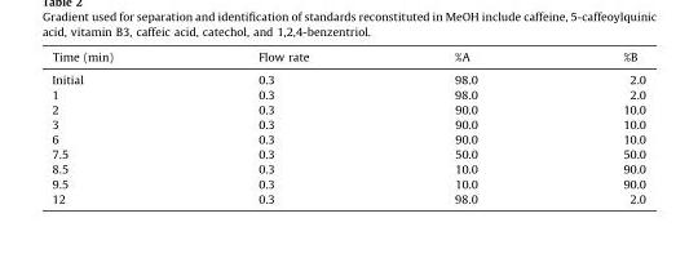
<table><thead><tr><td>Time (min)</td><td>Flow rate</td><td>%A</td><td>%B</td></tr></thead><tbody><tr><td>Initial</td><td>0.3</td><td>98.0</td><td>2.0</td></tr><tr><td>1</td><td>0.3</td><td>98.0</td><td>2.0</td></tr><tr><td>2</td><td>0.3</td><td>90.0</td><td>10.0</td></tr><tr><td>3</td><td>0.3</td><td>90.0</td><td>10.0</td></tr><tr><td>6</td><td>0.3</td><td>90.0</td><td>10.0</td></tr><tr><td>7.5</td><td>0.3</td><td>50.0</td><td>50.0</td></tr><tr><td>8.5</td><td>0.3</td><td>10.0</td><td>90.0</td></tr><tr><td>9.5</td><td>0.3</td><td>10.0</td><td>90.0</td></tr><tr><td>12</td><td>0.3</td><td>98.0</td><td>2.0</td></tr></tbody></table>